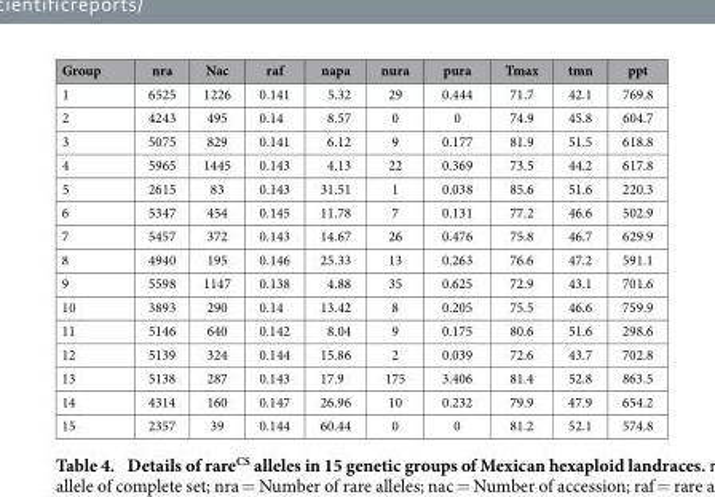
<table><thead><tr><td>Group</td><td>nra</td><td>Nac</td><td>raf</td><td>napa</td><td>nura</td><td>pura</td><td>Tmax</td><td>tmn</td><td>ppt</td></tr></thead><tbody><tr><td>1</td><td>6525</td><td>1226</td><td>0.141</td><td>5.32</td><td>29</td><td>0.444</td><td>71.7</td><td>42.1</td><td>769.8</td></tr><tr><td>2</td><td>4243</td><td>495</td><td>0.14</td><td>8.57</td><td>0</td><td>0</td><td>74.9</td><td>45.8</td><td>604.7</td></tr><tr><td>3</td><td>5075</td><td>829</td><td>0.141</td><td>6.12</td><td>9</td><td>0.177</td><td>81.9</td><td>51.5</td><td>618.8</td></tr><tr><td>4</td><td>5965</td><td>1445</td><td>0.143</td><td>4.13</td><td>22</td><td>0.369</td><td>73.5</td><td>44.2</td><td>617.8</td></tr><tr><td>5</td><td>2615</td><td>83</td><td>0.143</td><td>31.51</td><td>1</td><td>0.038</td><td>85.6</td><td>51.6</td><td>220.3</td></tr><tr><td>6</td><td>5347</td><td>454</td><td>0.145</td><td>11.78</td><td>7</td><td>0.131</td><td>77.2</td><td>46.6</td><td>502.9</td></tr><tr><td>7</td><td>5457</td><td>372</td><td>0.143</td><td>14.67</td><td>26</td><td>0.476</td><td>75.8</td><td>46.7</td><td>629.9</td></tr><tr><td>8</td><td>4940</td><td>195</td><td>0.146</td><td>25.33</td><td>13</td><td>0.263</td><td>76.6</td><td>47.2</td><td>591.1</td></tr><tr><td>9</td><td>5598</td><td>1147</td><td>0.138</td><td>4.88</td><td>35</td><td>0.625</td><td>72.9</td><td>43.1</td><td>701.6</td></tr><tr><td>10</td><td>3893</td><td>290</td><td>0.14</td><td>13.42</td><td>8</td><td>0.205</td><td>75.5</td><td>46.6</td><td>759.9</td></tr><tr><td>11</td><td>5146</td><td>640</td><td>0.142</td><td>8.04</td><td>9</td><td>0.175</td><td>80.6</td><td>51.6</td><td>298.6</td></tr><tr><td>12</td><td>5139</td><td>324</td><td>0.144</td><td>15.86</td><td>2</td><td>0.039</td><td>72.6</td><td>43.7</td><td>702.8</td></tr><tr><td>13</td><td>5138</td><td>287</td><td>0.143</td><td>17.9</td><td>175</td><td>3.406</td><td>81.4</td><td>52.8</td><td>863.5</td></tr><tr><td>14</td><td>4314</td><td>160</td><td>0.147</td><td>26.96</td><td>10</td><td>0.232</td><td>79.9</td><td>47.9</td><td>654.2</td></tr><tr><td>15</td><td>2357</td><td>39</td><td>0.144</td><td>60.44</td><td>0</td><td>0</td><td>81.2</td><td>52.1</td><td>574.8</td></tr></tbody></table>